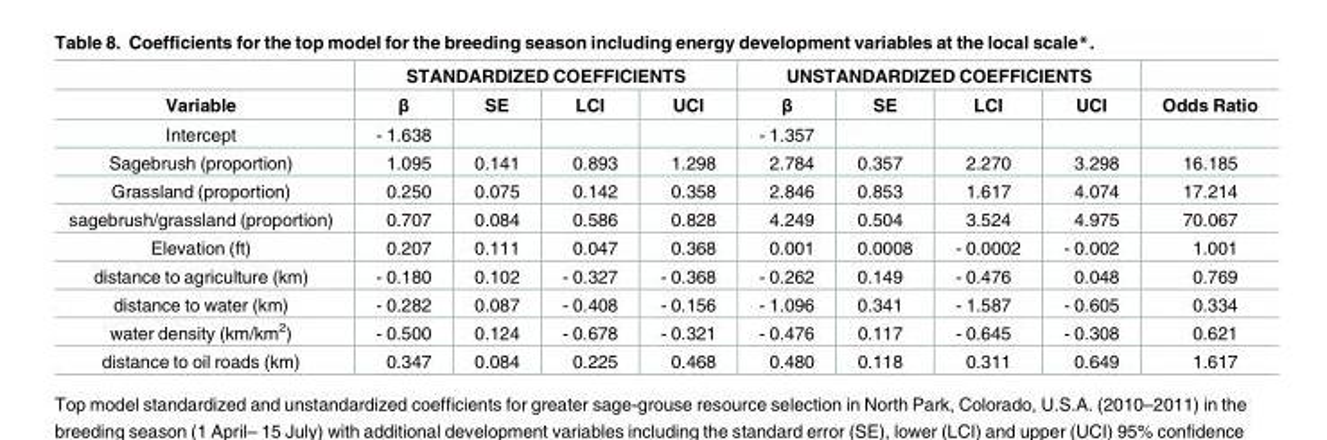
<table><thead><tr><td rowspan="2">Variable</td><td colspan="4">STANDARDIZED COEFFICIENTS</td><td colspan="4">UNSTANDARDIZED COEFFICIENTS</td><td rowspan="2">Odds Ratio</td></tr><tr><td>β</td><td>SE</td><td>LCI</td><td>UCI</td><td>β</td><td>SE</td><td>LCI</td><td>UCI</td></tr></thead><tbody><tr><td>Intercept</td><td>- 1.638</td><td></td><td></td><td></td><td>- 1.357</td><td></td><td></td><td></td><td></td></tr><tr><td>Sagebrush (proportion)</td><td>1.095</td><td>0.141</td><td>0.893</td><td>1.298</td><td>2.784</td><td>0.357</td><td>2.270</td><td>3.298</td><td>16.185</td></tr><tr><td>Grassland (proportion)</td><td>0.250</td><td>0.075</td><td>0.142</td><td>0.358</td><td>2.846</td><td>0.853</td><td>1.617</td><td>4.074</td><td>17.214</td></tr><tr><td>sagebrush/grassland (proportion)</td><td>0.707</td><td>0.084</td><td>0.586</td><td>0.828</td><td>4.249</td><td>0.504</td><td>3.524</td><td>4.975</td><td>70.067</td></tr><tr><td>Elevation (ft)</td><td>0.207</td><td>0.111</td><td>0.047</td><td>0.368</td><td>0.001</td><td>0.0008</td><td>- 0.0002</td><td>- 0.002</td><td>1.001</td></tr><tr><td>distance to agriculture (km)</td><td>- 0.180</td><td>0.102</td><td>- 0.327</td><td>- 0.368</td><td>- 0.262</td><td>0.149</td><td>- 0.476</td><td>0.048</td><td>0.769</td></tr><tr><td>distance to water (km)</td><td>- 0.282</td><td>0.087</td><td>- 0.408</td><td>- 0.156</td><td>- 1.096</td><td>0.341</td><td>- 1.587</td><td>- 0.605</td><td>0.334</td></tr><tr><td>water density (km/km<sup>2</sup>)</td><td>- 0.500</td><td>0.124</td><td>- 0.678</td><td>- 0.321</td><td>- 0.476</td><td>0.117</td><td>- 0.645</td><td>- 0.308</td><td>0.621</td></tr><tr><td>distance to oil roads (km)</td><td>0.347</td><td>0.084</td><td>0.225</td><td>0.468</td><td>0.480</td><td>0.118</td><td>0.311</td><td>0.649</td><td>1.617</td></tr></tbody></table>